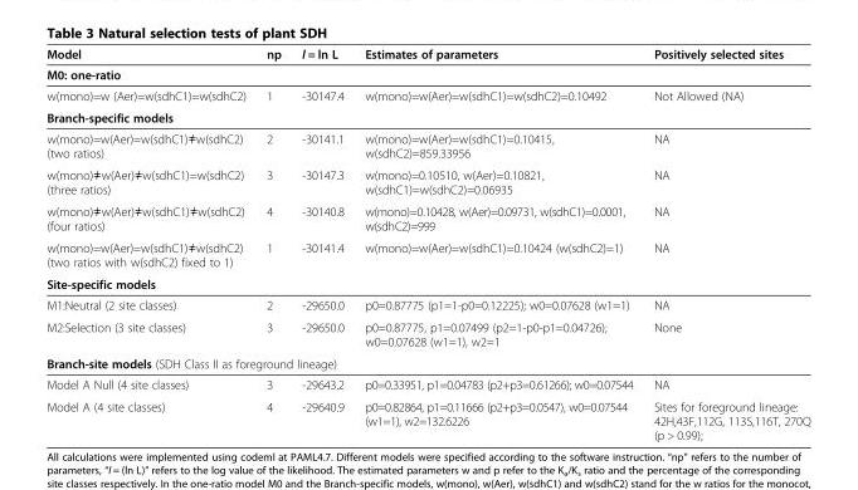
<table><thead><tr><td>Model</td><td>np</td><td>l = ln L</td><td>Estimates of parameters</td><td>Positively selected sites</td></tr></thead><tbody><tr><td colspan="5">M0: one-ratio</td></tr><tr><td>w(mono)=w (Aer)=w(sdhC1)=w(sdhC2)</td><td>1</td><td>-30147.4</td><td>w(mono)=w(Aer)=w(sdhC1)=w(sdhC2)=0.10492</td><td>Not Allowed (NA)</td></tr><tr><td colspan="5">Branch-specific models</td></tr><tr><td>w(mono)=w(Aer)=w(sdhC1)≠w(sdhC2) (two ratios)</td><td>2</td><td>-30141.1</td><td>w(mono)=w(Aer)=w(sdhC1)=0.10415, w(sdhC2)=859.33956</td><td>NA</td></tr><tr><td>w(mono)≠w(Aer)≠w(sdhC1)=w(sdhC2) (three ratios)</td><td>3</td><td>-30147.3</td><td>w(mono)=0.10510, w(Aer)=0.10821, w(sdhC1)=w(sdhC2)=0.06935</td><td>NA</td></tr><tr><td>w(mono)≠w(Aer)≠w(sdhC1)≠w(sdhC2) (four ratios)</td><td>4</td><td>-30140.8</td><td>w(mono)=0.10428, w(Aer)=0.09731, w(sdhC1)=0.0001, w(sdhC2)=999</td><td>NA</td></tr><tr><td>w(mono)=w(Aer)=w(sdhC1)≠w(sdhC2) (two ratios with w(sdhC2) fixed to 1)</td><td>1</td><td>-30141.4</td><td>w(mono)=w(Aer)=w(sdhC1)=0.10424 (w(sdhC2)=1)</td><td>NA</td></tr><tr><td colspan="5">Site-specific models</td></tr><tr><td>M1:Neutral (2 site classes)</td><td>2</td><td>-29650.0</td><td>p0=0.87775 (p1=1-p0=0.12225); w0=0.07628 (w1=1)</td><td>NA</td></tr><tr><td>M2:Selection (3 site classes)</td><td>3</td><td>-29650.0</td><td>p0=0.87775, p1=0.07499 (p2=1-p0-p1=0.04726); w0=0.07628 (w1=1), w2=1</td><td>None</td></tr><tr><td colspan="5">Branch-site models (SDH Class II as foreground lineage)</td></tr><tr><td>Model A Null (4 site classes)</td><td>3</td><td>-29643.2</td><td>p0=0.33951, p1=0.04783 (p2+p3=0.61266); w0=0.07544</td><td>NA</td></tr><tr><td>Model A (4 site classes)</td><td>4</td><td>-29640.9</td><td>p0=0.82864, p1=0.11666 (p2+p3=0.0547), w0=0.07544 (w1=1), w2=132.6226</td><td>Sites for foreground lineage: 42H,43F,112G, 113S,116T, 270Q (p &gt; 0.99);</td></tr></tbody></table>